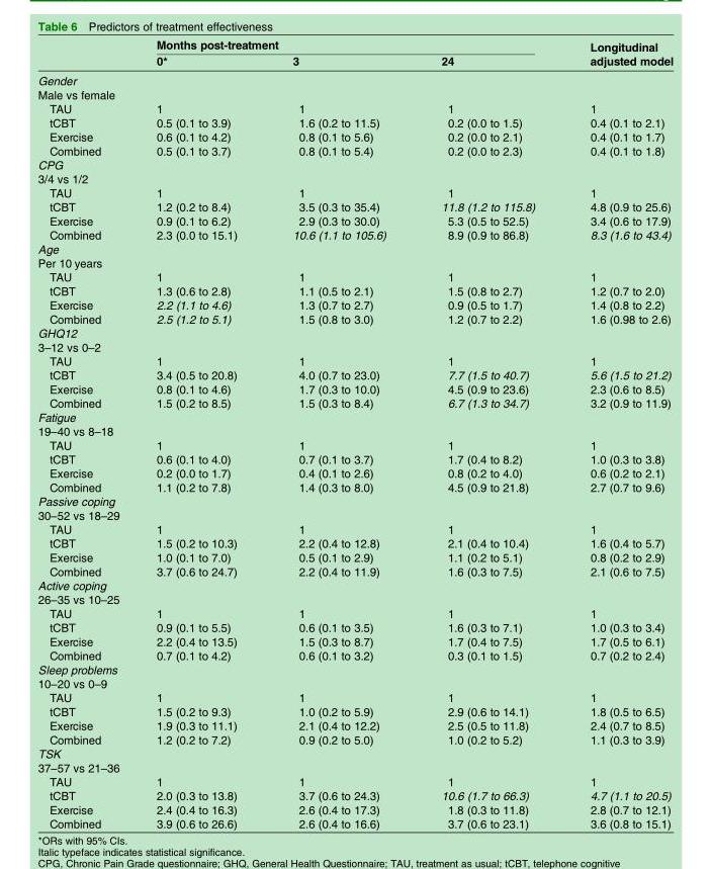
<table><thead><tr><td rowspan="2"></td><td colspan="3">Months post-treatment</td><td rowspan="2">Longitudinal adjusted model</td></tr><tr><td>0*</td><td>3</td><td>24</td></tr></thead><tbody><tr><td colspan="5">Gender</td></tr><tr><td colspan="5">Male vs female</td></tr><tr><td>TAU</td><td>1</td><td>1</td><td>1</td><td>1</td></tr><tr><td>tCBT</td><td>0.5 (0.1 to 3.9)</td><td>1.6 (0.2 to 11.5)</td><td>0.2 (0.0 to 1.5)</td><td>0.4 (0.1 to 2.1)</td></tr><tr><td>Exercise</td><td>0.6 (0.1 to 4.2)</td><td>0.8 (0.1 to 5.6)</td><td>0.2 (0.0 to 2.1)</td><td>0.4 (0.1 to 1.7)</td></tr><tr><td>Combined</td><td>0.5 (0.1 to 3.7)</td><td>0.8 (0.1 to 5.4)</td><td>0.2 (0.0 to 2.3)</td><td>0.4 (0.1 to 1.8)</td></tr><tr><td colspan="5">CPG</td></tr><tr><td colspan="5">3/4 vs 1/2</td></tr><tr><td>TAU</td><td>1</td><td>1</td><td>1</td><td>1</td></tr><tr><td>tCBT</td><td>1.2 (0.2 to 8.4)</td><td>3.5 (0.3 to 35.4)</td><td>11.8 (1.2 to 115.8)</td><td>4.8 (0.9 to 25.6)</td></tr><tr><td>Exercise</td><td>0.9 (0.1 to 6.2)</td><td>2.9 (0.3 to 30.0)</td><td>5.3 (0.5 to 52.5)</td><td>3.4 (0.6 to 17.9)</td></tr><tr><td>Combined</td><td>2.3 (0.0 to 15.1)</td><td>10.6 (1.1 to 105.6)</td><td>8.9 (0.9 to 86.8)</td><td>8.3 (1.6 to 43.4)</td></tr><tr><td colspan="5">Age</td></tr><tr><td colspan="5">Per 10 years</td></tr><tr><td>TAU</td><td>1</td><td>1</td><td>1</td><td>1</td></tr><tr><td>tCBT</td><td>1.3 (0.6 to 2.8)</td><td>1.1 (0.5 to 2.1)</td><td>1.5 (0.8 to 2.7)</td><td>1.2 (0.7 to 2.0)</td></tr><tr><td>Exercise</td><td>2.2 (1.1 to 4.6)</td><td>1.3 (0.7 to 2.7)</td><td>0.9 (0.5 to 1.7)</td><td>1.4 (0.8 to 2.2)</td></tr><tr><td>Combined</td><td>2.5 (1.2 to 5.1)</td><td>1.5 (0.8 to 3.0)</td><td>1.2 (0.7 to 2.2)</td><td>1.6 (0.98 to 2.6)</td></tr><tr><td colspan="5">GHQ12</td></tr><tr><td colspan="5">3–12 vs 0–2</td></tr><tr><td>TAU</td><td>1</td><td>1</td><td>1</td><td>1</td></tr><tr><td>tCBT</td><td>3.4 (0.5 to 20.8)</td><td>4.0 (0.7 to 23.0)</td><td>7.7 (1.5 to 40.7)</td><td>5.6 (1.5 to 21.2)</td></tr><tr><td>Exercise</td><td>0.8 (0.1 to 4.6)</td><td>1.7 (0.3 to 10.0)</td><td>4.5 (0.9 to 23.6)</td><td>2.3 (0.6 to 8.5)</td></tr><tr><td>Combined</td><td>1.5 (0.2 to 8.5)</td><td>1.5 (0.3 to 8.4)</td><td>6.7 (1.3 to 34.7)</td><td>3.2 (0.9 to 11.9)</td></tr><tr><td colspan="5">Fatigue</td></tr><tr><td colspan="5">19–40 vs 8–18</td></tr><tr><td>TAU</td><td>1</td><td>1</td><td>1</td><td>1</td></tr><tr><td>tCBT</td><td>0.6 (0.1 to 4.0)</td><td>0.7 (0.1 to 3.7)</td><td>1.7 (0.4 to 8.2)</td><td>1.0 (0.3 to 3.8)</td></tr><tr><td>Exercise</td><td>0.2 (0.0 to 1.7)</td><td>0.4 (0.1 to 2.6)</td><td>0.8 (0.2 to 4.0)</td><td>0.6 (0.2 to 2.1)</td></tr><tr><td>Combined</td><td>1.1 (0.2 to 7.8)</td><td>1.4 (0.3 to 8.0)</td><td>4.5 (0.9 to 21.8)</td><td>2.7 (0.7 to 9.6)</td></tr><tr><td colspan="5">Passive coping</td></tr><tr><td colspan="5">30–52 vs 18–29</td></tr><tr><td>TAU</td><td>1</td><td>1</td><td>1</td><td>1</td></tr><tr><td>tCBT</td><td>1.5 (0.2 to 10.3)</td><td>2.2 (0.4 to 12.8)</td><td>2.1 (0.4 to 10.4)</td><td>1.6 (0.4 to 5.7)</td></tr><tr><td>Exercise</td><td>1.0 (0.1 to 7.0)</td><td>0.5 (0.1 to 2.9)</td><td>1.1 (0.2 to 5.1)</td><td>0.8 (0.2 to 2.9)</td></tr><tr><td>Combined</td><td>3.7 (0.6 to 24.7)</td><td>2.2 (0.4 to 11.9)</td><td>1.6 (0.3 to 7.5)</td><td>2.1 (0.6 to 7.5)</td></tr><tr><td colspan="5">Active coping</td></tr><tr><td colspan="5">26–35 vs 10–25</td></tr><tr><td>TAU</td><td>1</td><td>1</td><td>1</td><td>1</td></tr><tr><td>tCBT</td><td>0.9 (0.1 to 5.5)</td><td>0.6 (0.1 to 3.5)</td><td>1.6 (0.3 to 7.1)</td><td>1.0 (0.3 to 3.4)</td></tr><tr><td>Exercise</td><td>2.2 (0.4 to 13.5)</td><td>1.5 (0.3 to 8.7)</td><td>1.7 (0.4 to 7.5)</td><td>1.7 (0.5 to 6.1)</td></tr><tr><td>Combined</td><td>0.7 (0.1 to 4.2)</td><td>0.6 (0.1 to 3.2)</td><td>0.3 (0.1 to 1.5)</td><td>0.7 (0.2 to 2.4)</td></tr><tr><td colspan="5">Sleep problems</td></tr><tr><td colspan="5">10–20 vs 0–9</td></tr><tr><td>TAU</td><td>1</td><td>1</td><td>1</td><td>1</td></tr><tr><td>tCBT</td><td>1.5 (0.2 to 9.3)</td><td>1.0 (0.2 to 5.9)</td><td>2.9 (0.6 to 14.1)</td><td>1.8 (0.5 to 6.5)</td></tr><tr><td>Exercise</td><td>1.9 (0.3 to 11.1)</td><td>2.1 (0.4 to 12.2)</td><td>2.5 (0.5 to 11.8)</td><td>2.4 (0.7 to 8.5)</td></tr><tr><td>Combined</td><td>1.2 (0.2 to 7.2)</td><td>0.9 (0.2 to 5.0)</td><td>1.0 (0.2 to 5.2)</td><td>1.1 (0.3 to 3.9)</td></tr><tr><td colspan="5">TSK</td></tr><tr><td colspan="5">37–57 vs 21–36</td></tr><tr><td>TAU</td><td>1</td><td>1</td><td>1</td><td>1</td></tr><tr><td>tCBT</td><td>2.0 (0.3 to 13.8)</td><td>3.7 (0.6 to 24.3)</td><td>10.6 (1.7 to 66.3)</td><td>4.7 (1.1 to 20.5)</td></tr><tr><td>Exercise</td><td>2.4 (0.4 to 16.3)</td><td>2.6 (0.4 to 17.3)</td><td>1.8 (0.3 to 11.8)</td><td>2.8 (0.7 to 12.1)</td></tr><tr><td>Combined</td><td>3.9 (0.6 to 26.6)</td><td>2.6 (0.4 to 16.6)</td><td>3.7 (0.6 to 23.1)</td><td>3.6 (0.8 to 15.1)</td></tr></tbody></table>